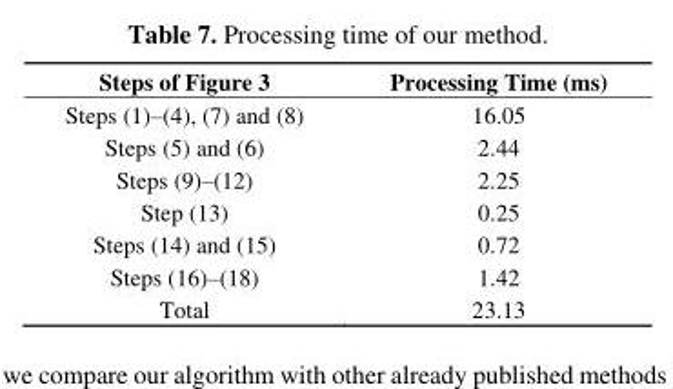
<table><thead><tr><td>Steps of Figure 3</td><td>Processing Time (ms)</td></tr></thead><tbody><tr><td>Steps (1)–(4), (7) and (8)</td><td>16.05</td></tr><tr><td>Steps (5) and (6)</td><td>2.44</td></tr><tr><td>Steps (9)–(12)</td><td>2.25</td></tr><tr><td>Step (13)</td><td>0.25</td></tr><tr><td>Steps (14) and (15)</td><td>0.72</td></tr><tr><td>Steps (16)–(18)</td><td>1.42</td></tr><tr><td>Total</td><td>23.13</td></tr></tbody></table>